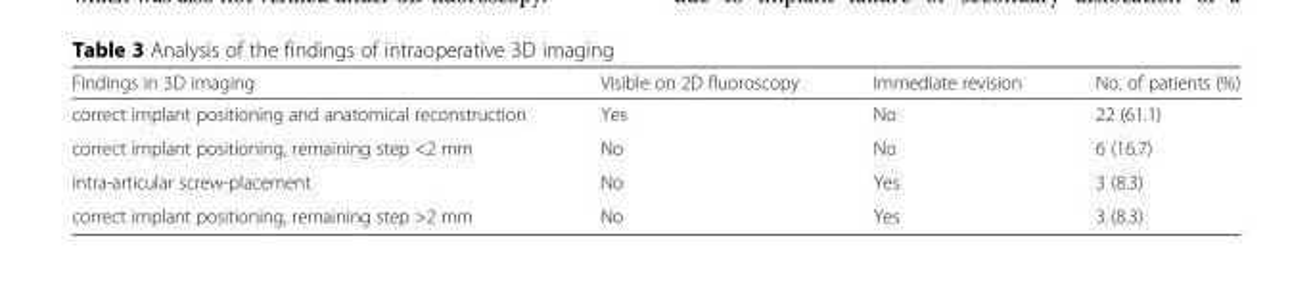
<table><thead><tr><td>Findings in 3D imaging</td><td>Visible on 2D fluoroscopy</td><td>Immediate revision</td><td>No. of patients (%)</td></tr></thead><tbody><tr><td>correct implant positioning and anatomical reconstruction</td><td>Yes</td><td>No</td><td>22 (61.1)</td></tr><tr><td>correct implant positioning, remaining step &lt;2 mm</td><td>No</td><td>No</td><td>6 (16.7)</td></tr><tr><td>intra-articular screw-placement</td><td>No</td><td>Yes</td><td>3 (8.3)</td></tr><tr><td>correct implant positioning, remaining step &gt;2 mm</td><td>No</td><td>Yes</td><td>3 (8.3)</td></tr></tbody></table>